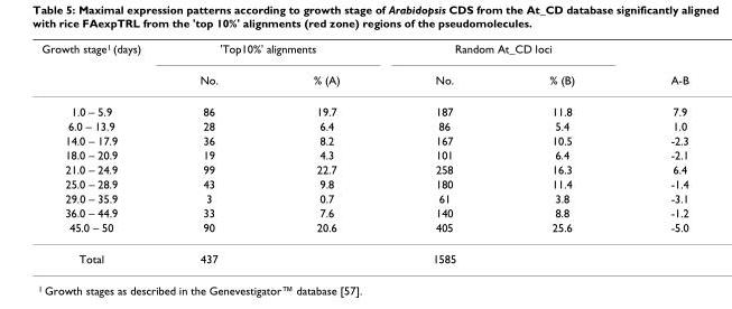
<table><thead><tr><td rowspan="2">Growth stage<sup>1</sup> (days)</td><td colspan="2">&#x27;Top10%&#x27; alignments</td><td colspan="2">Random At_CD loci</td><td rowspan="2">A-B</td></tr><tr><td>No.</td><td>% (A)</td><td>No.</td><td>% (B)</td></tr></thead><tbody><tr><td>1.0 – 5.9</td><td>86</td><td>19.7</td><td>187</td><td>11.8</td><td>7.9</td></tr><tr><td>6.0 – 13.9</td><td>28</td><td>6.4</td><td>86</td><td>5.4</td><td>1.0</td></tr><tr><td>14.0 – 17.9</td><td>36</td><td>8.2</td><td>167</td><td>10.5</td><td>-2.3</td></tr><tr><td>18.0 – 20.9</td><td>19</td><td>4.3</td><td>101</td><td>6.4</td><td>-2.1</td></tr><tr><td>21.0 – 24.9</td><td>99</td><td>22.7</td><td>258</td><td>16.3</td><td>6.4</td></tr><tr><td>25.0 – 28.9</td><td>43</td><td>9.8</td><td>180</td><td>11.4</td><td>-1.4</td></tr><tr><td>29.0 – 35.9</td><td>3</td><td>0.7</td><td>61</td><td>3.8</td><td>-3.1</td></tr><tr><td>36.0 – 44.9</td><td>33</td><td>7.6</td><td>140</td><td>8.8</td><td>-1.2</td></tr><tr><td>45.0 – 50</td><td>90</td><td>20.6</td><td>405</td><td>25.6</td><td>-5.0</td></tr><tr><td>Total</td><td>437</td><td></td><td>1585</td><td></td><td></td></tr></tbody></table>